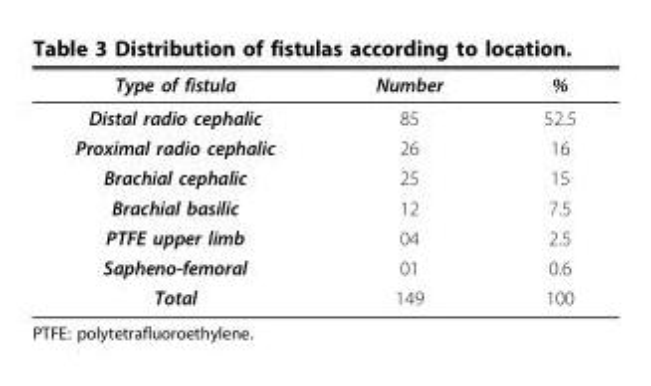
<table><tbody><tr><td>Type of fistula</td><td>Number</td><td>%</td></tr><tr><td>Distal radio cephalic</td><td>85</td><td>52.5</td></tr><tr><td>Proximal radio cephalic</td><td>26</td><td>16</td></tr><tr><td>Brachial cephalic</td><td>25</td><td>15</td></tr><tr><td>Brachial basilic</td><td>12</td><td>7.5</td></tr><tr><td>PTFE upper limb</td><td>04</td><td>2.5</td></tr><tr><td>Sapheno-femoral</td><td>01</td><td>0.6</td></tr><tr><td>Total</td><td>149</td><td>100</td></tr></tbody></table>